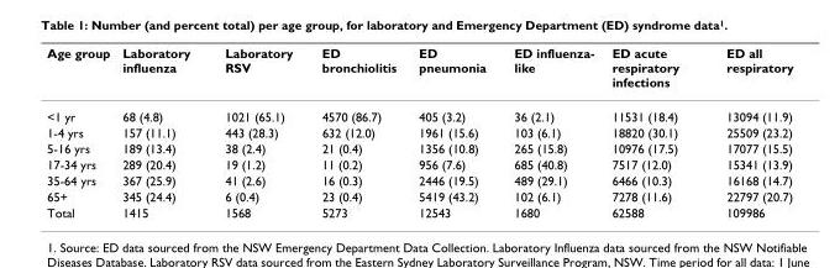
<table><thead><tr><td>Age group</td><td>Laboratory influenza</td><td>Laboratory RSV</td><td>ED bronchiolitis</td><td>ED pneumonia</td><td>ED influenza- like</td><td>ED acute respiratory infections</td><td>ED all respiratory</td></tr></thead><tbody><tr><td>&lt;1 yr</td><td>68 (4.8)</td><td>1021 (65.1)</td><td>4570 (86.7)</td><td>405 (3.2)</td><td>36 (2.1)</td><td>11531 (18.4)</td><td>13094 (11.9)</td></tr><tr><td>1-4 yrs</td><td>157 (11.1)</td><td>443 (28.3)</td><td>632 (12.0)</td><td>1961 (15.6)</td><td>103 (6.1)</td><td>18820 (30.1)</td><td>25509 (23.2)</td></tr><tr><td>5-16 yrs</td><td>189 (13.4)</td><td>38 (2.4)</td><td>21 (0.4)</td><td>1356 (10.8)</td><td>265 (15.8)</td><td>10976 (17.5)</td><td>17077 (15.5)</td></tr><tr><td>17-34 yrs</td><td>289 (20.4)</td><td>19 (1.2)</td><td>11 (0.2)</td><td>956 (7.6)</td><td>685 (40.8)</td><td>7517 (12.0)</td><td>15341 (13.9)</td></tr><tr><td>35-64 yrs</td><td>367 (25.9)</td><td>41 (2.6)</td><td>16 (0.3)</td><td>2446 (19.5)</td><td>489 (29.1)</td><td>6466 (10.3)</td><td>16168 (14.7)</td></tr><tr><td>65+</td><td>345 (24.4)</td><td>6 (0.4)</td><td>23 (0.4)</td><td>5419 (43.2)</td><td>102 (6.1)</td><td>7278 (11.6)</td><td>22797 (20.7)</td></tr><tr><td>Total</td><td>1415</td><td>1568</td><td>5273</td><td>12543</td><td>1680</td><td>62588</td><td>109986</td></tr></tbody></table>